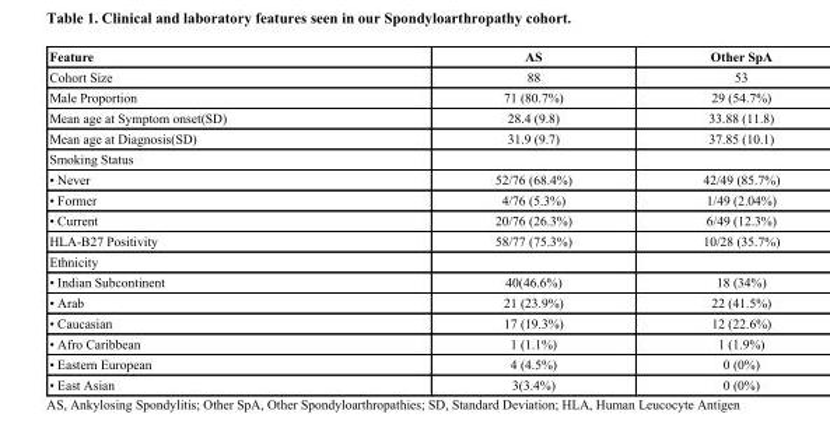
<table><thead><tr><td>Feature</td><td>AS</td><td>Other SpA</td></tr></thead><tbody><tr><td>Cohort Size</td><td>88</td><td>53</td></tr><tr><td>Male Proportion</td><td>71 (80.7%)</td><td>29 (54.7%)</td></tr><tr><td>Mean age at Symptom onset(SD)</td><td>28.4 (9.8)</td><td>33.88 (11.8)</td></tr><tr><td>Mean age at Diagnosis(SD)</td><td>31.9 (9.7)</td><td>37.85 (10.1)</td></tr><tr><td colspan="3">Smoking Status</td></tr><tr><td>• Never</td><td>52/76 (68.4%)</td><td>42/49 (85.7%)</td></tr><tr><td>• Former</td><td>4/76 (5.3%)</td><td>1/49 (2.04%)</td></tr><tr><td>• Current</td><td>20/76 (26.3%)</td><td>6/49 (12.3%)</td></tr><tr><td>HLA-B27 Positivity</td><td>58/77 (75.3%)</td><td>10/28 (35.7%)</td></tr><tr><td colspan="3">Ethnicity</td></tr><tr><td>• Indian Subcontinent</td><td>40(46.6%)</td><td>18 (34%)</td></tr><tr><td>• Arab</td><td>21 (23.9%)</td><td>22 (41.5%)</td></tr><tr><td>• Caucasian</td><td>17 (19.3%)</td><td>12 (22.6%)</td></tr><tr><td>• Afro Caribbean</td><td>1 (1.1%)</td><td>1 (1.9%)</td></tr><tr><td>• Eastern European</td><td>4 (4.5%)</td><td>0 (0%)</td></tr><tr><td>• East Asian</td><td>3(3.4%)</td><td>0 (0%)</td></tr></tbody></table>